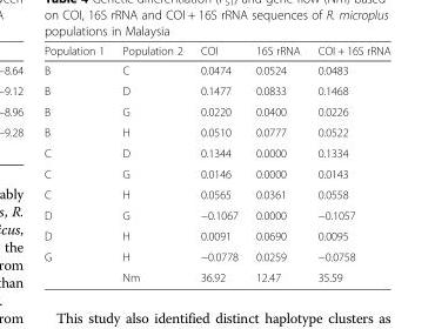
<table><thead><tr><td>Population 1</td><td>Population 2</td><td>COI</td><td>16S rRNA</td><td>COI + 16S rRNA</td></tr></thead><tbody><tr><td>B</td><td>C</td><td>0.0474</td><td>0.0524</td><td>0.0483</td></tr><tr><td>B</td><td>D</td><td>0.1477</td><td>0.0833</td><td>0.1468</td></tr><tr><td>B</td><td>G</td><td>0.0220</td><td>0.0400</td><td>0.0226</td></tr><tr><td>B</td><td>H</td><td>0.0510</td><td>0.0777</td><td>0.0522</td></tr><tr><td>C</td><td>D</td><td>0.1344</td><td>0.0000</td><td>0.1334</td></tr><tr><td>C</td><td>G</td><td>0.0146</td><td>0.0000</td><td>0.0143</td></tr><tr><td>C</td><td>H</td><td>0.0565</td><td>0.0361</td><td>0.0558</td></tr><tr><td>D</td><td>G</td><td>−0.1067</td><td>0.0000</td><td>−0.1057</td></tr><tr><td>D</td><td>H</td><td>0.0091</td><td>0.0690</td><td>0.0095</td></tr><tr><td rowspan="2">G</td><td>H</td><td>−0.0778</td><td>0.0259</td><td>−0.0758</td></tr><tr><td>Nm</td><td>36.92</td><td>12.47</td><td>35.59</td></tr></tbody></table>